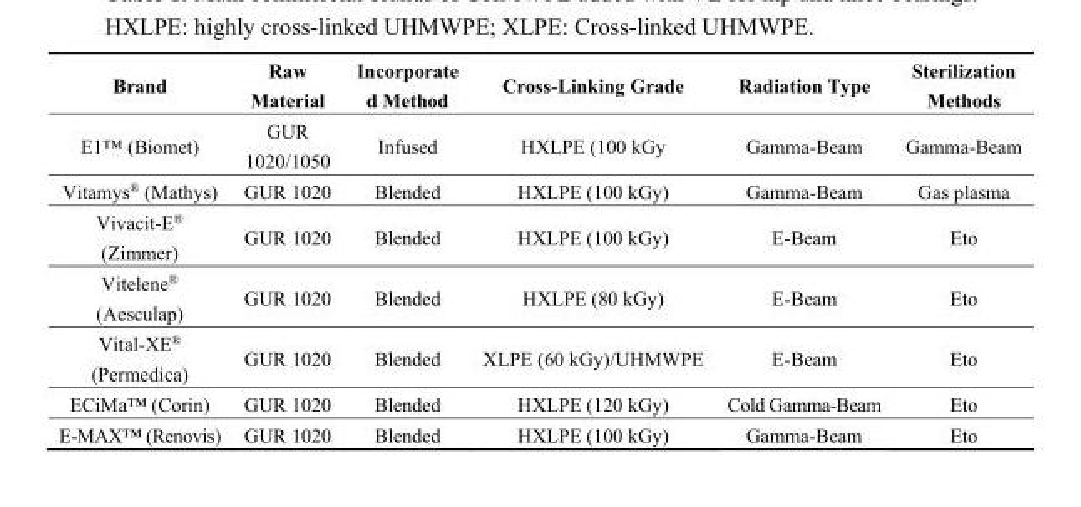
<table><thead><tr><td>Brand</td><td>Raw Material</td><td>Incorporate d Method</td><td>Cross-Linking Grade</td><td>Radiation Type</td><td>Sterilization Methods</td></tr></thead><tbody><tr><td>E1™ (Biomet)</td><td>GUR 1020/1050</td><td>Infused</td><td>HXLPE (100 kGy</td><td>Gamma-Beam</td><td>Gamma-Beam</td></tr><tr><td>Vitamys<sup>®</sup> (Mathys)</td><td>GUR 1020</td><td>Blended</td><td>HXLPE (100 kGy)</td><td>Gamma-Beam</td><td>Gas plasma</td></tr><tr><td>Vivacit-E<sup>®</sup> (Zimmer)</td><td>GUR 1020</td><td>Blended</td><td>HXLPE (100 kGy)</td><td>E-Beam</td><td>Eto</td></tr><tr><td>Vitelene<sup>®</sup> (Aesculap)</td><td>GUR 1020</td><td>Blended</td><td>HXLPE (80 kGy)</td><td>E-Beam</td><td>Eto</td></tr><tr><td>Vital-XE<sup>®</sup> (Permedica)</td><td>GUR 1020</td><td>Blended</td><td>XLPE (60 kGy)/UHMWPE</td><td>E-Beam</td><td>Eto</td></tr><tr><td>ECiMa™ (Corin)</td><td>GUR 1020</td><td>Blended</td><td>HXLPE (120 kGy)</td><td>Cold Gamma-Beam</td><td>Eto</td></tr><tr><td>E-MAX™ (Renovis)</td><td>GUR 1020</td><td>Blended</td><td>HXLPE (100 kGy)</td><td>Gamma-Beam</td><td>Eto</td></tr></tbody></table>